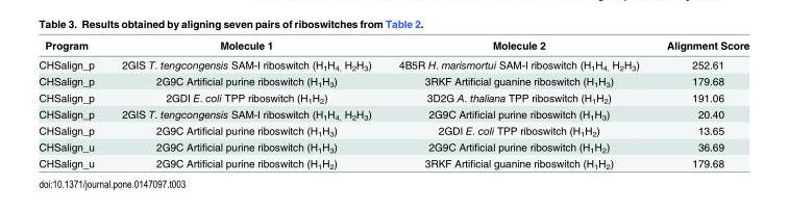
<table><thead><tr><td>Program</td><td>Molecule 1</td><td>Molecule 2</td><td>Alignment Score</td></tr></thead><tbody><tr><td>CHSalign_p</td><td>2GIS T. tengcongensis SAM-I riboswitch (H<sub>1</sub>H<sub>4,</sub> H<sub>2</sub>H<sub>3</sub>)</td><td>4B5R H. marismortui SAM-I riboswitch (H<sub>1</sub>H<sub>4,</sub> H<sub>2</sub>H<sub>3</sub>)</td><td>252.61</td></tr><tr><td>CHSalign_p</td><td>2G9C Artificial purine riboswitch (H<sub>1</sub>H<sub>3</sub>)</td><td>3RKF Artificial guanine riboswitch (H<sub>1</sub>H<sub>3</sub>)</td><td>179.68</td></tr><tr><td>CHSalign_p</td><td>2GDI E. coli TPP riboswitch (H<sub>1</sub>H<sub>2</sub>)</td><td>3D2G A. thaliana TPP riboswitch (H<sub>1</sub>H<sub>2</sub>)</td><td>191.06</td></tr><tr><td>CHSalign_p</td><td>2GIS T. tengcongensis SAM-I riboswitch (H<sub>1</sub>H<sub>4,</sub> H<sub>2</sub>H<sub>3</sub>)</td><td>2G9C Artificial purine riboswitch (H<sub>1</sub>H<sub>3</sub>)</td><td>20.40</td></tr><tr><td>CHSalign_p</td><td>2G9C Artificial purine riboswitch (H<sub>1</sub>H<sub>3</sub>)</td><td>2GDI E. coli TPP riboswitch (H<sub>1</sub>H<sub>2</sub>)</td><td>13.65</td></tr><tr><td>CHSalign_u</td><td>2G9C Artificial purine riboswitch (H<sub>1</sub>H<sub>3</sub>)</td><td>2G9C Artificial purine riboswitch (H<sub>1</sub>H<sub>2</sub>)</td><td>36.69</td></tr><tr><td>CHSalign_u</td><td>2G9C Artificial purine riboswitch (H<sub>1</sub>H<sub>2</sub>)</td><td>3RKF Artificial guanine riboswitch (H<sub>1</sub>H<sub>2</sub>)</td><td>179.68</td></tr></tbody></table>